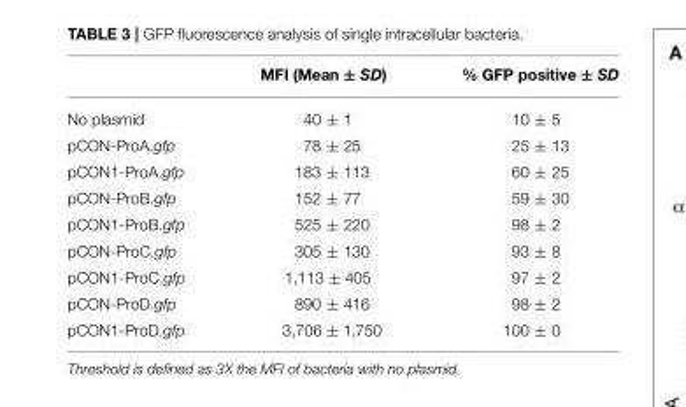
<table><thead><tr><td></td><td>MFI (Mean ± SD)</td><td>% GFP positive ± SD</td></tr></thead><tbody><tr><td>No plasmid</td><td>40 ± 1</td><td>10 ± 5</td></tr><tr><td>pCON-ProA.gfp</td><td>78 ± 25</td><td>25 ± 13</td></tr><tr><td>pCON1-ProA.gfp</td><td>183 ± 113</td><td>60 ± 25</td></tr><tr><td>pCON-ProB.gfp</td><td>152 ± 77</td><td>59 ± 30</td></tr><tr><td>pCON1-ProB.gfp</td><td>525 ± 220</td><td>98 ± 2</td></tr><tr><td>pCON-ProC.gfp</td><td>305 ± 130</td><td>93 ± 8</td></tr><tr><td>pCON1-ProC.gfp</td><td>1,113 ± 405</td><td>97 ± 2</td></tr><tr><td>pCON-ProD.gfp</td><td>890 ± 416</td><td>98 ± 2</td></tr><tr><td>pCON1-ProD.gfp</td><td>3,706 ± 1,750</td><td>100 ± 0</td></tr></tbody></table>